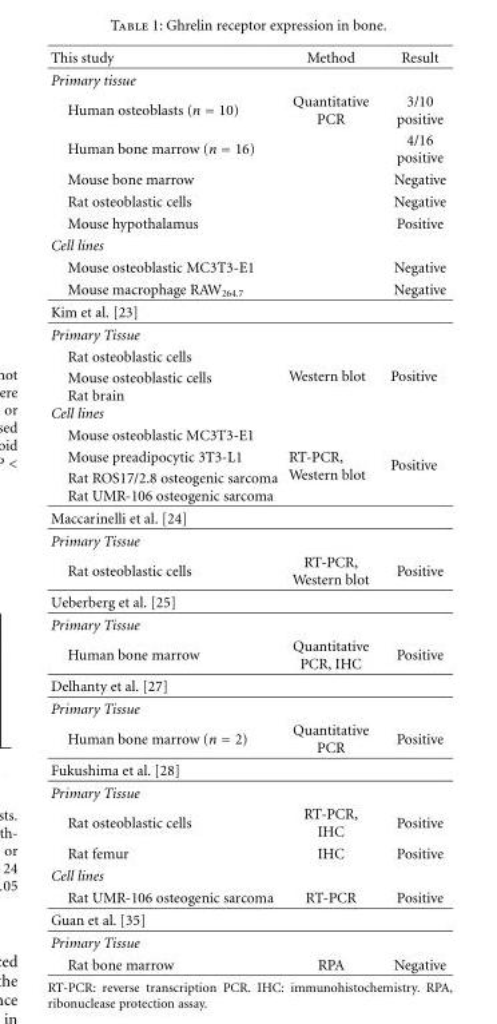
<table><thead><tr><td>This study</td><td>Method</td><td>Result</td></tr></thead><tbody><tr><td colspan="3">Primary tissue</td></tr><tr><td>Human osteoblasts (n = 10)</td><td>Quantitative PCR</td><td>3/10 positive</td></tr><tr><td>Human bone marrow (n = 16)</td><td></td><td>4/16 positive</td></tr><tr><td>Mouse bone marrow</td><td></td><td>Negative</td></tr><tr><td>Rat osteoblastic cells</td><td></td><td>Negative</td></tr><tr><td>Mouse hypothalamus</td><td></td><td>Positive</td></tr><tr><td colspan="3">Cell lines</td></tr><tr><td>Mouse osteoblastic MC3T3-E1</td><td></td><td>Negative</td></tr><tr><td>Mouse macrophage RAW<sub>264.7</sub></td><td></td><td>Negative</td></tr><tr><td colspan="3">Kim et al. [23]</td></tr><tr><td colspan="3">Primary Tissue</td></tr><tr><td>Rat osteoblastic cells</td><td rowspan="3">Western blot</td><td rowspan="3">Positive</td></tr><tr><td>Mouse osteoblastic cells</td></tr><tr><td>Rat brain</td></tr><tr><td colspan="3">Cell lines</td></tr><tr><td colspan="2">Mouse osteoblastic MC3T3-E1</td><td rowspan="4">Positive</td></tr><tr><td>Mouse preadipocytic 3T3-L1</td><td rowspan="2">RT-PCR, Western blot</td></tr><tr><td>Rat ROS17/2.8 osteogenic sarcoma</td></tr><tr><td colspan="2">Rat UMR-106 osteogenic sarcoma</td></tr><tr><td colspan="3">Maccarinelli et al. [24]</td></tr><tr><td colspan="3">Primary Tissue</td></tr><tr><td>Rat osteoblastic cells</td><td>RT-PCR, Western blot</td><td>Positive</td></tr><tr><td colspan="3">Ueberberg et al. [25]</td></tr><tr><td colspan="3">Primary Tissue</td></tr><tr><td>Human bone marrow</td><td>Quantitative PCR, IHC</td><td>Positive</td></tr><tr><td colspan="3">Delhanty et al. [27]</td></tr><tr><td colspan="3">Primary Tissue</td></tr><tr><td>Human bone marrow (n = 2)</td><td>Quantitative PCR</td><td>Positive</td></tr><tr><td colspan="3">Fukushima et al. [28]</td></tr><tr><td colspan="3">Primary Tissue</td></tr><tr><td>Rat osteoblastic cells</td><td>RT-PCR, IHC</td><td>Positive</td></tr><tr><td>Rat femur</td><td>IHC</td><td>Positive</td></tr><tr><td colspan="3">Cell lines</td></tr><tr><td>Rat UMR-106 osteogenic sarcoma</td><td>RT-PCR</td><td>Positive</td></tr><tr><td colspan="3">Guan et al. [35]</td></tr><tr><td colspan="3">Primary Tissue</td></tr><tr><td>Rat bone marrow</td><td>RPA</td><td>Negative</td></tr></tbody></table>